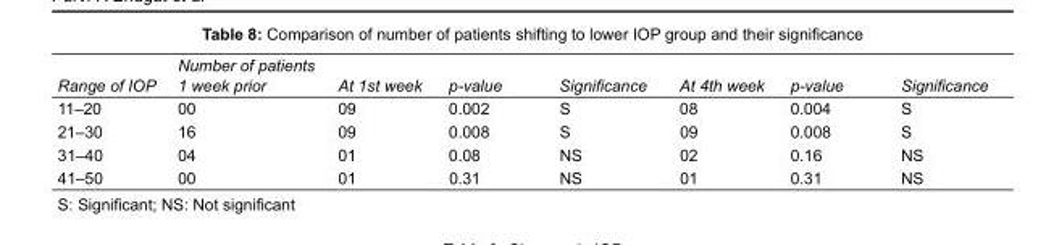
<table><tbody><tr><td>Range of IOP</td><td>Number of patients 1 week prior</td><td>At 1st week</td><td>p-value</td><td>Significance</td><td>At 4th week</td><td>p-value</td><td>Significance</td></tr><tr><td>11–20</td><td>00</td><td>09</td><td>0.002</td><td>S</td><td>08</td><td>0.004</td><td>S</td></tr><tr><td>21–30</td><td>16</td><td>09</td><td>0.008</td><td>S</td><td>09</td><td>0.008</td><td>S</td></tr><tr><td>31–40</td><td>04</td><td>01</td><td>0.08</td><td>NS</td><td>02</td><td>0.16</td><td>NS</td></tr><tr><td>41–50</td><td>00</td><td>01</td><td>0.31</td><td>NS</td><td>01</td><td>0.31</td><td>NS</td></tr></tbody></table>